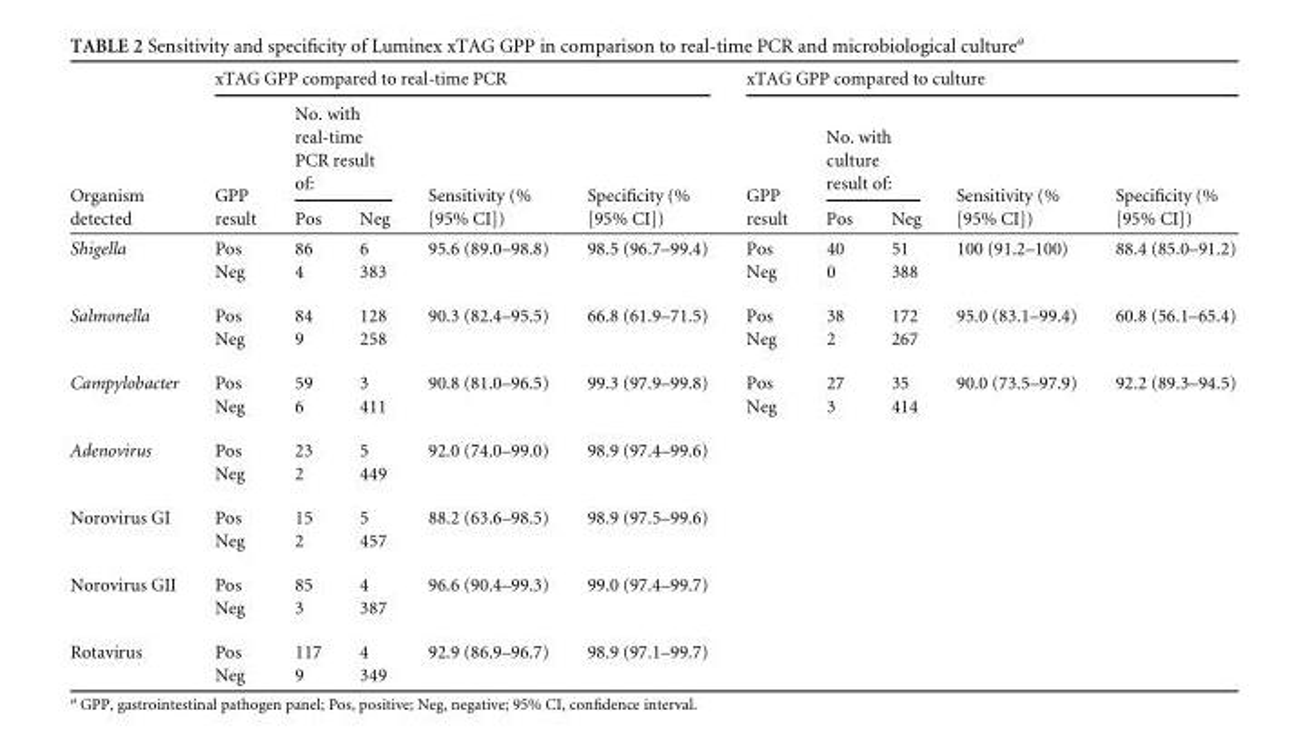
<table><thead><tr><td rowspan="3">Organism detected</td><td colspan="5">xTAG GPP compared to real-time PCR</td><td colspan="5">xTAG GPP compared to culture</td></tr><tr><td rowspan="2">GPP result</td><td colspan="2">No. with real-time PCR result of:</td><td rowspan="2">Sensitivity (% [95% CI])</td><td rowspan="2">Specificity (% [95% CI])</td><td rowspan="2">GPP result</td><td colspan="2">No. with culture result of:</td><td rowspan="2">Sensitivity (% [95% CI])</td><td rowspan="2">Specificity (% [95% CI])</td></tr><tr><td>Pos</td><td>Neg</td><td>Pos</td><td>Neg</td></tr></thead><tbody><tr><td rowspan="2">Shigella</td><td>Pos</td><td>86</td><td>6</td><td>95.6 (89.0–98.8)</td><td>98.5 (96.7–99.4)</td><td>Pos</td><td>40</td><td>51</td><td>100 (91.2–100)</td><td>88.4 (85.0–91.2)</td></tr><tr><td>Neg</td><td>4</td><td>383</td><td></td><td></td><td>Neg</td><td>0</td><td>388</td><td></td><td></td></tr><tr><td rowspan="2">Salmonella</td><td>Pos</td><td>84</td><td>128</td><td>90.3 (82.4–95.5)</td><td>66.8 (61.9–71.5)</td><td>Pos</td><td>38</td><td>172</td><td>95.0 (83.1–99.4)</td><td>60.8 (56.1–65.4)</td></tr><tr><td>Neg</td><td>9</td><td>258</td><td></td><td></td><td>Neg</td><td>2</td><td>267</td><td></td><td></td></tr><tr><td rowspan="2">Campylobacter</td><td>Pos</td><td>59</td><td>3</td><td>90.8 (81.0–96.5)</td><td>99.3 (97.9–99.8)</td><td>Pos</td><td>27</td><td>35</td><td>90.0 (73.5–97.9)</td><td>92.2 (89.3–94.5)</td></tr><tr><td>Neg</td><td>6</td><td>411</td><td></td><td></td><td>Neg</td><td>3</td><td>414</td><td></td><td></td></tr><tr><td rowspan="2">Adenovirus</td><td>Pos</td><td>23</td><td>5</td><td>92.0 (74.0–99.0)</td><td>98.9 (97.4–99.6)</td><td></td><td></td><td></td><td></td><td></td></tr><tr><td>Neg</td><td>2</td><td>449</td><td></td><td></td><td></td><td></td><td></td><td></td><td></td></tr><tr><td rowspan="2">Norovirus GI</td><td>Pos</td><td>15</td><td>5</td><td>88.2 (63.6–98.5)</td><td>98.9 (97.5–99.6)</td><td></td><td></td><td></td><td></td><td></td></tr><tr><td>Neg</td><td>2</td><td>457</td><td></td><td></td><td></td><td></td><td></td><td></td><td></td></tr><tr><td rowspan="2">Norovirus GII</td><td>Pos</td><td>85</td><td>4</td><td>96.6 (90.4–99.3)</td><td>99.0 (97.4–99.7)</td><td></td><td></td><td></td><td></td><td></td></tr><tr><td>Neg</td><td>3</td><td>387</td><td></td><td></td><td></td><td></td><td></td><td></td><td></td></tr><tr><td rowspan="2">Rotavirus</td><td>Pos</td><td>117</td><td>4</td><td>92.9 (86.9–96.7)</td><td>98.9 (97.1–99.7)</td><td></td><td></td><td></td><td></td><td></td></tr><tr><td>Neg</td><td>9</td><td>349</td><td></td><td></td><td></td><td></td><td></td><td></td><td></td></tr></tbody></table>